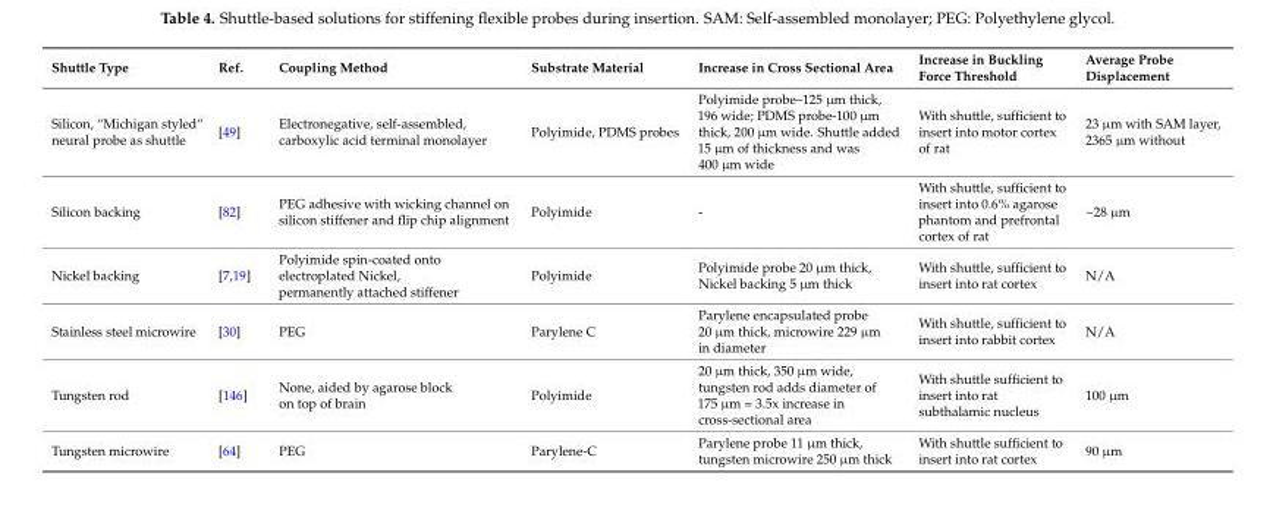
<table><thead><tr><td>Shuttle Type</td><td>Ref.</td><td>Coupling Method</td><td>Substrate Material</td><td>Increase in Cross Sectional Area</td><td>Increase in Buckling Force Threshold</td><td>Average Probe Displacement</td></tr></thead><tbody><tr><td>Silicon, “Michigan styled“ neural probe as shuttle</td><td>[49]</td><td>Electronegative, self-assembled, carboxylic acid terminal monolayer</td><td>Polyimide, PDMS probes</td><td>Polyimide probe–125 µm thick, 196 wide; PDMS probe-100 µm thick, 200 µm wide. Shuttle added 15 µm of thickness and was 400 µm wide</td><td>With shuttle, sufficient to insert into motor cortex of rat</td><td>23 µm with SAM layer, 2365 µm without</td></tr><tr><td>Silicon backing</td><td>[82]</td><td>PEG adhesive with wicking channel on silicon stiffener and flip chip alignment</td><td>Polyimide</td><td>-</td><td>With shuttle, sufficient to insert into 0.6% agarose phantom and prefrontal cortex of rat</td><td>~28 µm</td></tr><tr><td>Nickel backing</td><td>[7,19]</td><td>Polyimide spin-coated onto electroplated Nickel, permanently attached stiffener</td><td>Polyimide</td><td>Polyimide probe 20 µm thick, Nickel backing 5 µm thick</td><td>With shuttle, sufficient to insert into rat cortex</td><td>N/A</td></tr><tr><td>Stainless steel microwire</td><td>[30]</td><td>PEG</td><td>Parylene C</td><td>Parylene encapsulated probe 20 µm thick, microwire 229 µm in diameter</td><td>With shuttle, sufficient to insert into rabbit cortex</td><td>N/A</td></tr><tr><td>Tungsten rod</td><td>[146]</td><td>None, aided by agarose block on top of brain</td><td>Polyimide</td><td>20 µm thick, 350 µm wide, tungsten rod adds diameter of 175 µm = 3.5x increase in cross-sectional area</td><td>With shuttle sufficient to insert into rat subthalamic nucleus</td><td>100 µm</td></tr><tr><td>Tungsten microwire</td><td>[64]</td><td>PEG</td><td>Parylene-C</td><td>Parylene probe 11 µm thick, tungsten microwire 250 µm thick</td><td>With shuttle sufficient to insert into rat cortex</td><td>90 µm</td></tr></tbody></table>